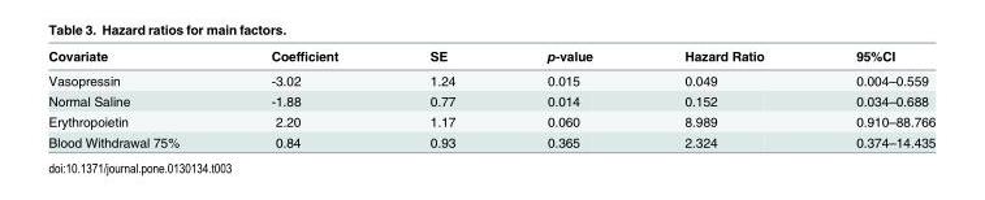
<table><thead><tr><td>Covariate</td><td>Coefficient</td><td>SE</td><td>p-value</td><td>Hazard Ratio</td><td>95%CI</td></tr></thead><tbody><tr><td>Vasopressin</td><td>-3.02</td><td>1.24</td><td>0.015</td><td>0.049</td><td>0.004–0.559</td></tr><tr><td>Normal Saline</td><td>-1.88</td><td>0.77</td><td>0.014</td><td>0.152</td><td>0.034–0.688</td></tr><tr><td>Erythropoietin</td><td>2.20</td><td>1.17</td><td>0.060</td><td>8.989</td><td>0.910–88.766</td></tr><tr><td>Blood Withdrawal 75%</td><td>0.84</td><td>0.93</td><td>0.365</td><td>2.324</td><td>0.374–14.435</td></tr></tbody></table>